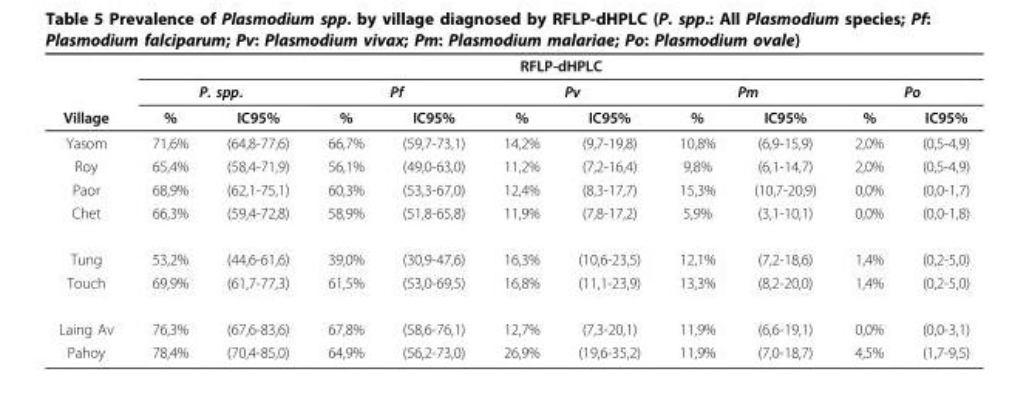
<table><thead><tr><td rowspan="3">Village</td><td colspan="10">RFLP-dHPLC</td></tr><tr><td colspan="2">P. spp.</td><td colspan="2">Pf</td><td colspan="2">Pv</td><td colspan="2">Pm</td><td colspan="2">Po</td></tr><tr><td>%</td><td>IC95%</td><td>%</td><td>IC95%</td><td>%</td><td>IC95%</td><td>%</td><td>IC95%</td><td>%</td><td>IC95%</td></tr></thead><tbody><tr><td>Yasom</td><td>71,6%</td><td>(64,8-77,6)</td><td>66,7%</td><td>(59,7-73,1)</td><td>14,2%</td><td>(9,7-19,8)</td><td>10,8%</td><td>(6,9-15,9)</td><td>2,0%</td><td>(0,5-4,9)</td></tr><tr><td>Roy</td><td>65,4%</td><td>(58,4-71,9)</td><td>56,1%</td><td>(49,0-63,0)</td><td>11,2%</td><td>(7,2-16,4)</td><td>9,8%</td><td>(6,1-14,7)</td><td>2,0%</td><td>(0,5-4,9)</td></tr><tr><td>Paor</td><td>68,9%</td><td>(62,1-75,1)</td><td>60,3%</td><td>(53,3-67,0)</td><td>12,4%</td><td>(8,3-17,7)</td><td>15,3%</td><td>(10,7-20,9)</td><td>0,0%</td><td>(0,0-1,7)</td></tr><tr><td>Chet</td><td>66,3%</td><td>(59,4-72,8)</td><td>58,9%</td><td>(51,8-65,8)</td><td>11,9%</td><td>(7,8-17,2)</td><td>5,9%</td><td>(3,1-10,1)</td><td>0,0%</td><td>(0,0-1,8)</td></tr><tr><td>Tung</td><td>53,2%</td><td>(44,6-61,6)</td><td>39,0%</td><td>(30,9-47,6)</td><td>16,3%</td><td>(10,6-23,5)</td><td>12,1%</td><td>(7,2-18,6)</td><td>1,4%</td><td>(0,2-5,0)</td></tr><tr><td>Touch</td><td>69,9%</td><td>(61,7-77,3)</td><td>61,5%</td><td>(53,0-69,5)</td><td>16,8%</td><td>(11,1-23,9)</td><td>13,3%</td><td>(8,2-20,0)</td><td>1,4%</td><td>(0,2-5,0)</td></tr><tr><td>Laing Av</td><td>76,3%</td><td>(67,6-83,6)</td><td>67,8%</td><td>(58,6-76,1)</td><td>12,7%</td><td>(7,3-20,1)</td><td>11,9%</td><td>(6,6-19,1)</td><td>0,0%</td><td>(0,0-3,1)</td></tr><tr><td>Pahoy</td><td>78,4%</td><td>(70,4-85,0)</td><td>64,9%</td><td>(56,2-73,0)</td><td>26,9%</td><td>(19,6-35,2)</td><td>11,9%</td><td>(7,0-18,7)</td><td>4,5%</td><td>(1,7-9,5)</td></tr></tbody></table>